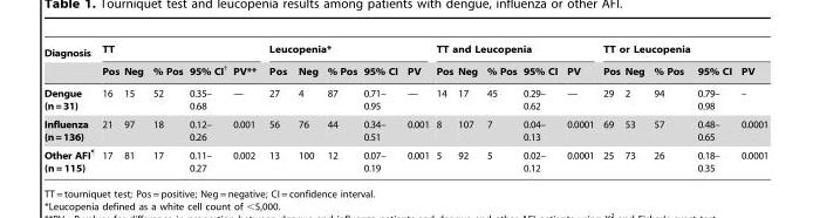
<table><thead><tr><td rowspan="2">Diagnosis</td><td colspan="5">TT</td><td colspan="5">Leucopenia*</td><td colspan="5">TT and Leucopenia</td><td colspan="5">TT or Leucopenia</td></tr><tr><td>Pos</td><td>Neg</td><td>% Pos</td><td>95% CI†</td><td>PV**</td><td>Pos</td><td>Neg</td><td>% Pos</td><td>95% CI</td><td>PV</td><td>Pos</td><td>Neg</td><td>% Pos</td><td>95% CI</td><td>PV</td><td>Pos</td><td>Neg</td><td>% Pos</td><td>95% CI</td><td>PV</td></tr></thead><tbody><tr><td>Dengue (n=31)</td><td>16</td><td>15</td><td>52</td><td>0.35– 0.68</td><td>—</td><td>27</td><td>4</td><td>87</td><td>0.71– 0.95</td><td>—</td><td>14</td><td>17</td><td>45</td><td>0.29– 0.62</td><td>—</td><td>29</td><td>2</td><td>94</td><td>0.79– 0.98</td><td>–</td></tr><tr><td>Influenza (n=136)</td><td>21</td><td>97</td><td>18</td><td>0.12– 0.26</td><td>0.001</td><td>56</td><td>76</td><td>44</td><td>0.34– 0.51</td><td>0.001</td><td>8</td><td>107</td><td>7</td><td>0.04– 0.13</td><td>0.0001</td><td>69</td><td>53</td><td>57</td><td>0.48– 0.65</td><td>0.0001</td></tr><tr><td>Other AFI¶ (n = 115)</td><td>17</td><td>81</td><td>17</td><td>0.11– 0.27</td><td>0.002</td><td>13</td><td>100</td><td>12</td><td>0.07– 0.19</td><td>0.001</td><td>5</td><td>92</td><td>5</td><td>0.02– 0.12</td><td>0.0001</td><td>25</td><td>73</td><td>26</td><td>0.18– 0.35</td><td>0.0001</td></tr></tbody></table>